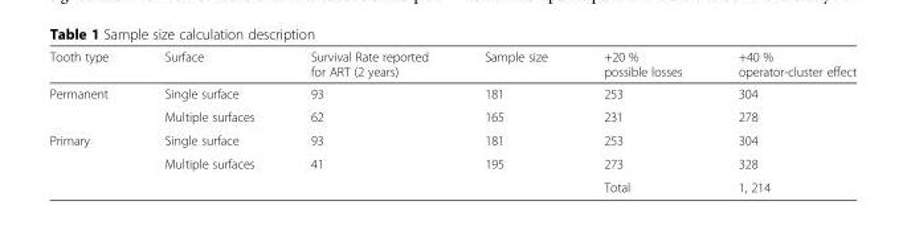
<table><thead><tr><td>Tooth type</td><td>Surface</td><td>Survival Rate reported for ART (2 years)</td><td>Sample size</td><td>+20 % possible losses</td><td>+40 % operator-cluster effect</td></tr></thead><tbody><tr><td rowspan="2">Permanent</td><td>Single surface</td><td>93</td><td>181</td><td>253</td><td>304</td></tr><tr><td>Multiple surfaces</td><td>62</td><td>165</td><td>231</td><td>278</td></tr><tr><td rowspan="2">Primary</td><td>Single surface</td><td>93</td><td>181</td><td>253</td><td>304</td></tr><tr><td>Multiple surfaces</td><td>41</td><td>195</td><td>273</td><td>328</td></tr><tr><td colspan="4"></td><td>Total</td><td>1, 214</td></tr></tbody></table>